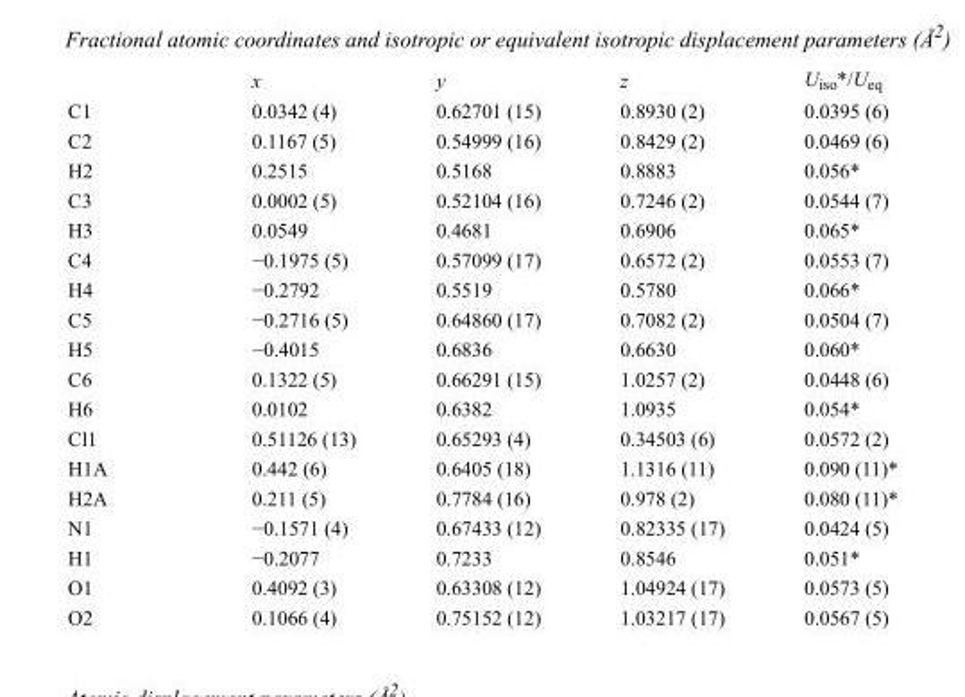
<table><thead><tr><td></td><td>x</td><td>y</td><td>z</td><td>U<sub>iso</sub>*/U<sub>eq</sub></td></tr></thead><tbody><tr><td>C1</td><td>0.0342 (4)</td><td>0.62701 (15)</td><td>0.8930 (2)</td><td>0.0395 (6)</td></tr><tr><td>C2</td><td>0.1167 (5)</td><td>0.54999 (16)</td><td>0.8429 (2)</td><td>0.0469 (6)</td></tr><tr><td>H2</td><td>0.2515</td><td>0.5168</td><td>0.8883</td><td>0.056*</td></tr><tr><td>C3</td><td>0.0002 (5)</td><td>0.52104 (16)</td><td>0.7246 (2)</td><td>0.0544 (7)</td></tr><tr><td>H3</td><td>0.0549</td><td>0.4681</td><td>0.6906</td><td>0.065*</td></tr><tr><td>C4</td><td>−0.1975 (5)</td><td>0.57099 (17)</td><td>0.6572 (2)</td><td>0.0553 (7)</td></tr><tr><td>H4</td><td>−0.2792</td><td>0.5519</td><td>0.5780</td><td>0.066*</td></tr><tr><td>C5</td><td>−0.2716 (5)</td><td>0.64860 (17)</td><td>0.7082 (2)</td><td>0.0504 (7)</td></tr><tr><td>H5</td><td>−0.4015</td><td>0.6836</td><td>0.6630</td><td>0.060*</td></tr><tr><td>C6</td><td>0.1322 (5)</td><td>0.66291 (15)</td><td>1.0257 (2)</td><td>0.0448 (6)</td></tr><tr><td>H6</td><td>0.0102</td><td>0.6382</td><td>1.0935</td><td>0.054*</td></tr><tr><td>Cl1</td><td>0.51126 (13)</td><td>0.65293 (4)</td><td>0.34503 (6)</td><td>0.0572 (2)</td></tr><tr><td>H1A</td><td>0.442 (6)</td><td>0.6405 (18)</td><td>1.1316 (11)</td><td>0.090 (11)*</td></tr><tr><td>H2A</td><td>0.211 (5)</td><td>0.7784 (16)</td><td>0.978 (2)</td><td>0.080 (11)*</td></tr><tr><td>N1</td><td>−0.1571 (4)</td><td>0.67433 (12)</td><td>0.82335 (17)</td><td>0.0424 (5)</td></tr><tr><td>H1</td><td>−0.2077</td><td>0.7233</td><td>0.8546</td><td>0.051*</td></tr><tr><td>O1</td><td>0.4092 (3)</td><td>0.63308 (12)</td><td>1.04924 (17)</td><td>0.0573 (5)</td></tr><tr><td>O2</td><td>0.1066 (4)</td><td>0.75152 (12)</td><td>1.03217 (17)</td><td>0.0567 (5)</td></tr></tbody></table>